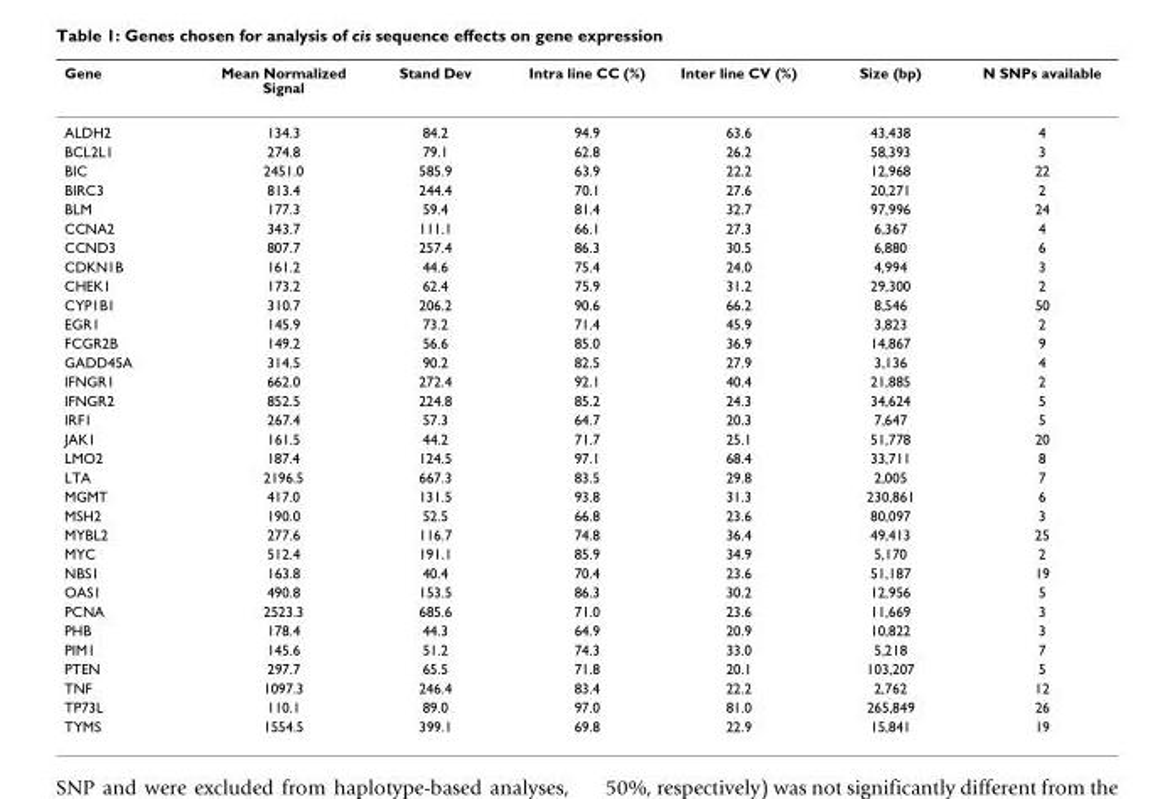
<table><thead><tr><td>Gene</td><td>Mean Normalized Signal</td><td>Stand Dev</td><td>Intra line CC (%)</td><td>Inter line CV (%)</td><td>Size (bp)</td><td>N SNPs available</td></tr></thead><tbody><tr><td>ALDH2</td><td>134.3</td><td>84.2</td><td>94.9</td><td>63.6</td><td>43,438</td><td>4</td></tr><tr><td>BCL2L1</td><td>274.8</td><td>79.1</td><td>62.8</td><td>26.2</td><td>58,393</td><td>3</td></tr><tr><td>BIC</td><td>2451.0</td><td>585.9</td><td>63.9</td><td>22.2</td><td>12,968</td><td>22</td></tr><tr><td>BIRC3</td><td>813.4</td><td>244.4</td><td>70.1</td><td>27.6</td><td>20,271</td><td>2</td></tr><tr><td>BLM</td><td>177.3</td><td>59.4</td><td>81.4</td><td>32.7</td><td>97,996</td><td>24</td></tr><tr><td>CCNA2</td><td>343.7</td><td>111.1</td><td>66.1</td><td>27.3</td><td>6,367</td><td>4</td></tr><tr><td>CCND3</td><td>807.7</td><td>257.4</td><td>86.3</td><td>30.5</td><td>6,880</td><td>6</td></tr><tr><td>CDKN1B</td><td>161.2</td><td>44.6</td><td>75.4</td><td>24.0</td><td>4,994</td><td>3</td></tr><tr><td>CHEK1</td><td>173.2</td><td>62.4</td><td>75.9</td><td>31.2</td><td>29,300</td><td>2</td></tr><tr><td>CYP1B1</td><td>310.7</td><td>206.2</td><td>90.6</td><td>66.2</td><td>8,546</td><td>50</td></tr><tr><td>EGR1</td><td>145.9</td><td>73.2</td><td>71.4</td><td>45.9</td><td>3,823</td><td>2</td></tr><tr><td>FCGR2B</td><td>149.2</td><td>56.6</td><td>85.0</td><td>36.9</td><td>14,867</td><td>9</td></tr><tr><td>GADD45A</td><td>314.5</td><td>90.2</td><td>82.5</td><td>27.9</td><td>3,136</td><td>4</td></tr><tr><td>IFNGR1</td><td>662.0</td><td>272.4</td><td>92.1</td><td>40.4</td><td>21,885</td><td>2</td></tr><tr><td>IFNGR2</td><td>852.5</td><td>224.8</td><td>85.2</td><td>24.3</td><td>34,624</td><td>5</td></tr><tr><td>IRF1</td><td>267.4</td><td>57.3</td><td>64.7</td><td>20.3</td><td>7,647</td><td>5</td></tr><tr><td>JAK1</td><td>161.5</td><td>44.2</td><td>71.7</td><td>25.1</td><td>51,778</td><td>20</td></tr><tr><td>LMO2</td><td>187.4</td><td>124.5</td><td>97.1</td><td>68.4</td><td>33,711</td><td>8</td></tr><tr><td>LTA</td><td>2196.5</td><td>667.3</td><td>83.5</td><td>29.8</td><td>2,005</td><td>7</td></tr><tr><td>MGMT</td><td>417.0</td><td>131.5</td><td>93.8</td><td>31.3</td><td>230,861</td><td>6</td></tr><tr><td>MSH2</td><td>190.0</td><td>52.5</td><td>66.8</td><td>23.6</td><td>80,097</td><td>3</td></tr><tr><td>MYBL2</td><td>277.6</td><td>116.7</td><td>74.8</td><td>36.4</td><td>49,413</td><td>25</td></tr><tr><td>MYC</td><td>512.4</td><td>191.1</td><td>85.9</td><td>34.9</td><td>5,170</td><td>2</td></tr><tr><td>NBS1</td><td>163.8</td><td>40.4</td><td>70.4</td><td>23.6</td><td>51,187</td><td>19</td></tr><tr><td>OAS1</td><td>490.8</td><td>153.5</td><td>86.3</td><td>30.2</td><td>12,956</td><td>5</td></tr><tr><td>PCNA</td><td>2523.3</td><td>685.6</td><td>71.0</td><td>23.6</td><td>11,669</td><td>3</td></tr><tr><td>PHB</td><td>178.4</td><td>44.3</td><td>64.9</td><td>20.9</td><td>10,822</td><td>3</td></tr><tr><td>PIM1</td><td>145.6</td><td>51.2</td><td>74.3</td><td>33.0</td><td>5,218</td><td>7</td></tr><tr><td>PTEN</td><td>297.7</td><td>65.5</td><td>71.8</td><td>20.1</td><td>103,207</td><td>5</td></tr><tr><td>TNF</td><td>1097.3</td><td>246.4</td><td>83.4</td><td>22.2</td><td>2,762</td><td>12</td></tr><tr><td>TP73L</td><td>110.1</td><td>89.0</td><td>97.0</td><td>81.0</td><td>265,849</td><td>26</td></tr><tr><td>TYMS</td><td>1554.5</td><td>399.1</td><td>69.8</td><td>22.9</td><td>15,841</td><td>19</td></tr></tbody></table>